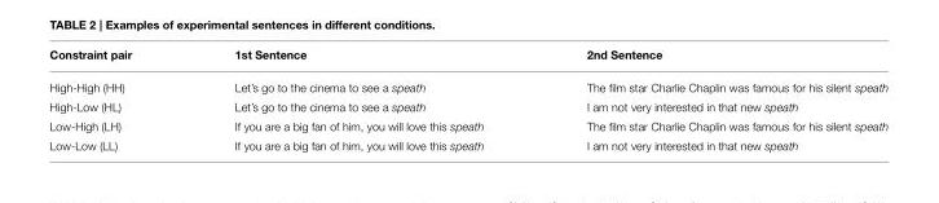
<table><thead><tr><td>Constraint pair</td><td>1st Sentence</td><td>2nd Sentence</td></tr></thead><tbody><tr><td>High-High (HH)</td><td>Let’s go to the cinema to see a speath</td><td>The film star Charlie Chaplin was famous for his silent speath</td></tr><tr><td>High-Low (HL)</td><td>Let’s go to the cinema to see a speath</td><td>I am not very interested in that new speath</td></tr><tr><td>Low-High (LH)</td><td>If you are a big fan of him, you will love this speath</td><td>The film star Charlie Chaplin was famous for his silent speath</td></tr><tr><td>Low-Low (LL)</td><td>If you are a big fan of him, you will love this speath</td><td>I am not very interested in that new speath</td></tr></tbody></table>